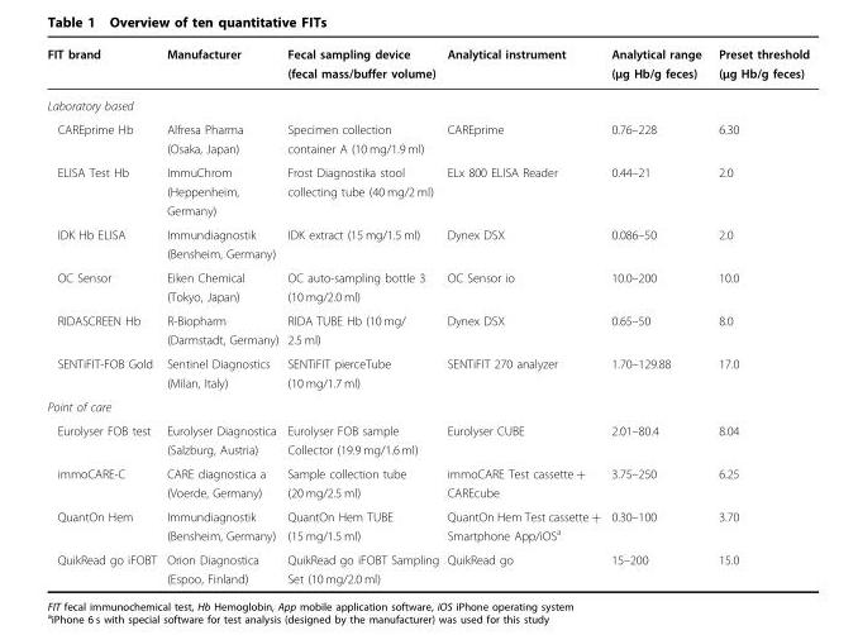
<table><thead><tr><td>FIT brand</td><td>Manufacturer</td><td>Fecal sampling device (fecal mass/buffer volume)</td><td>Analytical instrument</td><td>Analytical range (µg Hb/g feces)</td><td>Preset threshold (µg Hb/g feces)</td></tr></thead><tbody><tr><td colspan="6">Laboratory based</td></tr><tr><td>CAREprime Hb</td><td>Alfresa Pharma (Osaka, Japan)</td><td>Specimen collection container A (10 mg/1.9 ml)</td><td>CAREprime</td><td>0.76–228</td><td>6.30</td></tr><tr><td>ELISA Test Hb</td><td>ImmuChrom (Heppenheim, Germany)</td><td>Frost Diagnostika stool collecting tube (40 mg/2 ml)</td><td>ELx 800 ELISA Reader</td><td>0.44–21</td><td>2.0</td></tr><tr><td>IDK Hb ELISA</td><td>Immundiagnostik (Bensheim, Germany)</td><td>IDK extract (15 mg/1.5 ml)</td><td>Dynex DSX</td><td>0.086–50</td><td>2.0</td></tr><tr><td>OC Sensor</td><td>Eiken Chemical (Tokyo, Japan)</td><td>OC auto-sampling bottle 3 (10 mg/2.0 ml)</td><td>OC Sensor io</td><td>10.0–200</td><td>10.0</td></tr><tr><td>RIDASCREEN Hb</td><td>R-Biopharm (Darmstadt, Germany)</td><td>RIDA TUBE Hb (10 mg/ 2.5 ml)</td><td>Dynex DSX</td><td>0.65–50</td><td>8.0</td></tr><tr><td>SENTiFIT-FOB Gold</td><td>Sentinel Diagnostics (Milan, Italy)</td><td>SENTiFIT pierceTube (10 mg/1.7 ml)</td><td>SENTiFIT 270 analyzer</td><td>1.70–129.88</td><td>17.0</td></tr><tr><td colspan="6">Point of care</td></tr><tr><td>Eurolyser FOB test</td><td>Eurolyser Diagnostica (Salzburg, Austria)</td><td>Eurolyser FOB sample Collector (19.9 mg/1.6 ml)</td><td>Eurolyser CUBE</td><td>2.01–80.4</td><td>8.04</td></tr><tr><td>immoCARE-C</td><td>CARE diagnostica a (Voerde, Germany)</td><td>Sample collection tube (20 mg/2.5 ml)</td><td>immoCARE Test cassette + CAREcube</td><td>3.75–250</td><td>6.25</td></tr><tr><td>QuantOn Hem</td><td>Immundiagnostik (Bensheim, Germany)</td><td>QuantOn Hem TUBE (15 mg/1.5 ml)</td><td>QuantOn Hem Test cassette + Smartphone App/iOS<sup>a</sup></td><td>0.30–100</td><td>3.70</td></tr><tr><td>QuikRead go iFOBT</td><td>Orion Diagnostica (Espoo, Finland)</td><td>QuikRead go iFOBT Sampling Set (10 mg/2.0 ml)</td><td>QuikRead go</td><td>15–200</td><td>15.0</td></tr></tbody></table>